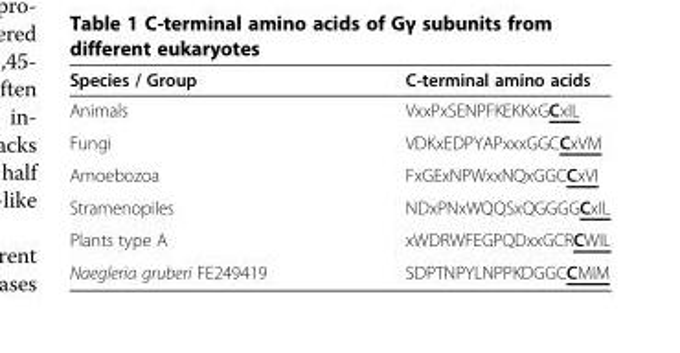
<table><thead><tr><td>Species / Group</td><td>C-terminal amino acids</td></tr></thead><tbody><tr><td>Animals</td><td>VxxPxSENPFKEKKxGCxIL</td></tr><tr><td>Fungi</td><td>VDKxEDPYAPxxxGGCCxVM</td></tr><tr><td>Amoebozoa</td><td>FxGExNPWxxNQxGGCCxVI</td></tr><tr><td>Stramenopiles</td><td>NDxPNxWQQSxQGGGGCxIL</td></tr><tr><td>Plants type A</td><td>xWDRWFEGPQDxxGCRCWIL</td></tr><tr><td>Naegleria gruberi FE249419</td><td>SDPTNPYLNPPKDGGCCMIM</td></tr></tbody></table>